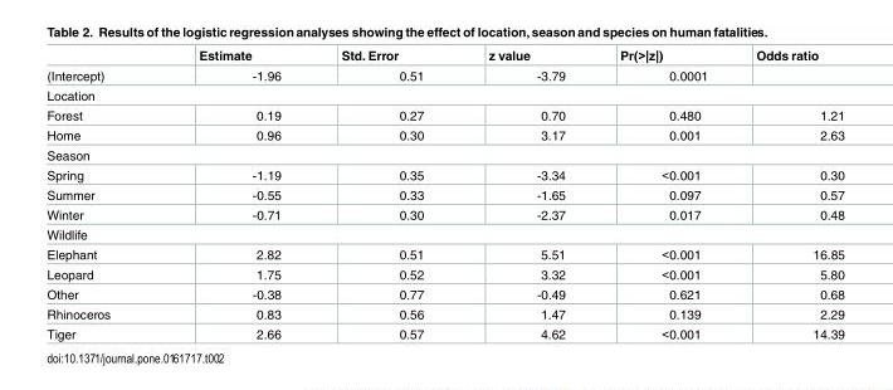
<table><thead><tr><td></td><td>Estimate</td><td>Std. Error</td><td>z value</td><td>Pr(&gt;|z|)</td><td>Odds ratio</td></tr></thead><tbody><tr><td>(Intercept)</td><td>-1.96</td><td>0.51</td><td>-3.79</td><td>0.0001</td><td></td></tr><tr><td colspan="6">Location</td></tr><tr><td>Forest</td><td>0.19</td><td>0.27</td><td>0.70</td><td>0.480</td><td>1.21</td></tr><tr><td>Home</td><td>0.96</td><td>0.30</td><td>3.17</td><td>0.001</td><td>2.63</td></tr><tr><td colspan="6">Season</td></tr><tr><td>Spring</td><td>-1.19</td><td>0.35</td><td>-3.34</td><td>&lt;0.001</td><td>0.30</td></tr><tr><td>Summer</td><td>-0.55</td><td>0.33</td><td>-1.65</td><td>0.097</td><td>0.57</td></tr><tr><td>Winter</td><td>-0.71</td><td>0.30</td><td>-2.37</td><td>0.017</td><td>0.48</td></tr><tr><td colspan="6">Wildlife</td></tr><tr><td>Elephant</td><td>2.82</td><td>0.51</td><td>5.51</td><td>&lt;0.001</td><td>16.85</td></tr><tr><td>Leopard</td><td>1.75</td><td>0.52</td><td>3.32</td><td>&lt;0.001</td><td>5.80</td></tr><tr><td>Other</td><td>-0.38</td><td>0.77</td><td>-0.49</td><td>0.621</td><td>0.68</td></tr><tr><td>Rhinoceros</td><td>0.83</td><td>0.56</td><td>1.47</td><td>0.139</td><td>2.29</td></tr><tr><td>Tiger</td><td>2.66</td><td>0.57</td><td>4.62</td><td>&lt;0.001</td><td>14.39</td></tr></tbody></table>